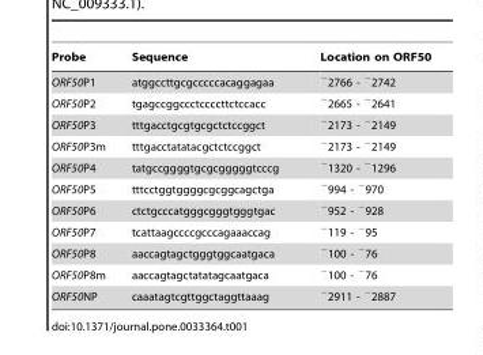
<table><thead><tr><td>Probe</td><td>Sequence</td><td>Location on ORF50</td></tr></thead><tbody><tr><td>ORF50P1</td><td>atggccttgcgcccccacaggagaa</td><td><sup>−</sup>2766 - <sup>−</sup>2742</td></tr><tr><td>ORF50P2</td><td>tgagccggccctccccttctccacc</td><td><sup>−</sup>2665 - <sup>−</sup>2641</td></tr><tr><td>ORF50P3</td><td>tttgacctgcgtgcgctctccggct</td><td><sup>−</sup>2173 - <sup>−</sup>2149</td></tr><tr><td>ORF50P3m</td><td>tttgacctatatacgctctccggct</td><td><sup>−</sup>2173 - <sup>−</sup>2149</td></tr><tr><td>ORF50P4</td><td>tatgccggggtgcgcgggggtcccg</td><td><sup>−</sup>1320 - <sup>−</sup>1296</td></tr><tr><td>ORF50P5</td><td>tttcctggtggggcgcggcagctga</td><td><sup>−</sup>994 - <sup>−</sup>970</td></tr><tr><td>ORF50P6</td><td>ctctgcccatgggcgggtgggtgac</td><td><sup>−</sup>952 - <sup>−</sup>928</td></tr><tr><td>ORF50P7</td><td>tcattaagccccgcccagaaaccag</td><td><sup>−</sup>119 - <sup>−</sup>95</td></tr><tr><td>ORF50P8</td><td>aaccagtagctgggtggcaatgaca</td><td><sup>−</sup>100 - <sup>−</sup>76</td></tr><tr><td>ORF50P8m</td><td>aaccagtagctatatagcaatgaca</td><td><sup>−</sup>100 - <sup>−</sup>76</td></tr><tr><td>ORF50NP</td><td>caaatagtcgttggctaggttaaag</td><td><sup>−</sup>2911 - <sup>−</sup>2887</td></tr></tbody></table>